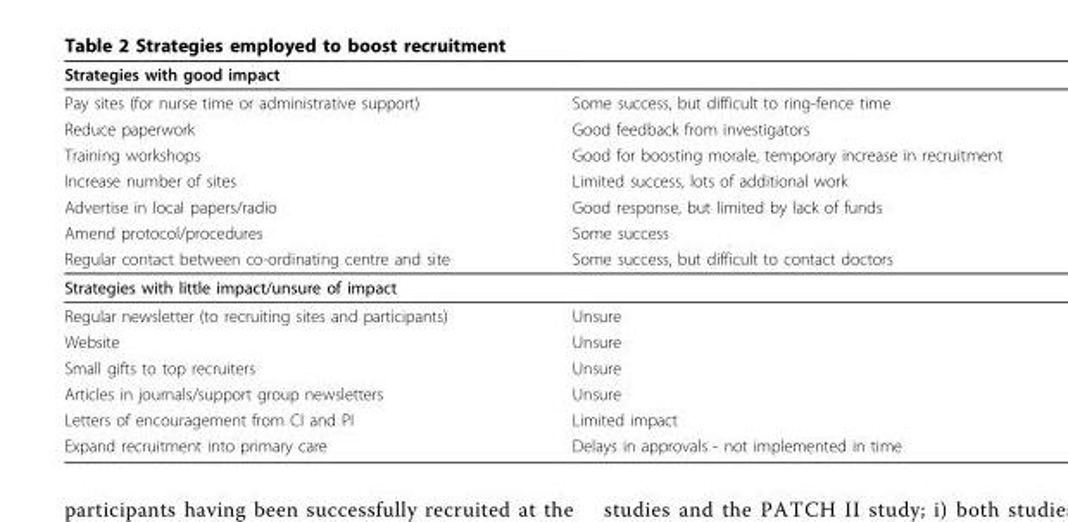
<table><thead><tr><td>Strategies with good impact</td><td></td></tr></thead><tbody><tr><td>Pay sites (for nurse time or administrative support)</td><td>Some success, but difficult to ring-fence time</td></tr><tr><td>Reduce paperwork</td><td>Good feedback from investigators</td></tr><tr><td>Training workshops</td><td>Good for boosting morale, temporary increase in recruitment</td></tr><tr><td>Increase number of sites</td><td>Limited success, lots of additional work</td></tr><tr><td>Advertise in local papers/radio</td><td>Good response, but limited by lack of funds</td></tr><tr><td>Amend protocol/procedures</td><td>Some success</td></tr><tr><td>Regular contact between co-ordinating centre and site</td><td>Some success, but difficult to contact doctors</td></tr><tr><td colspan="2">Strategies with little impact/unsure of impact</td></tr><tr><td>Regular newsletter (to recruiting sites and participants)</td><td>Unsure</td></tr><tr><td>Website</td><td>Unsure</td></tr><tr><td>Small gifts to top recruiters</td><td>Unsure</td></tr><tr><td>Articles in journals/support group newsletters</td><td>Unsure</td></tr><tr><td>Letters of encouragement from CI and PI</td><td>Limited impact</td></tr><tr><td>Expand recruitment into primary care</td><td>Delays in approvals - not implemented in time</td></tr></tbody></table>